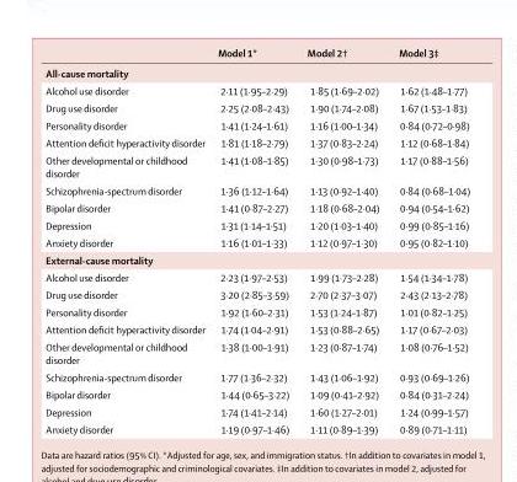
<table><thead><tr><td></td><td>Model 1*</td><td>Model 2†</td><td>Model 3‡</td></tr></thead><tbody><tr><td colspan="4">All-cause mortality</td></tr><tr><td>Alcohol use disorder</td><td>2·11 (1·95–2·29)</td><td>1·85 (1·69–2·02)</td><td>1·62 (1·48–1·77)</td></tr><tr><td>Drug use disorder</td><td>2·25 (2·08–2·43)</td><td>1·90 (1·74–2·08)</td><td>1·67 (1·53–1·83)</td></tr><tr><td>Personality disorder</td><td>1·41 (1·24–1·61)</td><td>1·16 (1·00–1·34)</td><td>0·84 (0·72–0·98)</td></tr><tr><td>Attention defi cit hyperactivity disorder</td><td>1·81 (1·18–2·79)</td><td>1·37 (0·83–2·24)</td><td>1·12 (0·68–1·84)</td></tr><tr><td>Other developmental or childhood disorder</td><td>1·41 (1·08–1·85)</td><td>1·30 (0·98–1·73)</td><td>1·17 (0·88–1·56)</td></tr><tr><td>Schizophrenia-spectrum disorder</td><td>1·36 (1·12–1·64)</td><td>1·13 (0·92–1·40)</td><td>0·84 (0·68–1·04)</td></tr><tr><td>Bipolar disorder</td><td>1·41 (0·87–2·27)</td><td>1·18 (0·68–2·04)</td><td>0·94 (0·54–1·62)</td></tr><tr><td>Depression</td><td>1·31 (1·14–1·51)</td><td>1·20 (1·03–1·40)</td><td>0·99 (0·85–1·16)</td></tr><tr><td>Anxiety disorder</td><td>1·16 (1·01–1·33)</td><td>1·12 (0·97–1·30)</td><td>0·95 (0·82–1·10)</td></tr><tr><td colspan="4">External-cause mortality</td></tr><tr><td>Alcohol use disorder</td><td>2·23 (1·97–2·53)</td><td>1·99 (1·73–2·28)</td><td>1·54 (1·34–1·78)</td></tr><tr><td>Drug use disorder</td><td>3·20 (2·85–3·59)</td><td>2·70 (2·37–3·07)</td><td>2·43 (2·13–2·78)</td></tr><tr><td>Personality disorder</td><td>1·92 (1·60–2·31)</td><td>1·53 (1·24–1·87)</td><td>1·01 (0·82–1·25)</td></tr><tr><td>Attention defi cit hyperactivity disorder</td><td>1·74 (1·04–2·91)</td><td>1·53 (0·88–2·65)</td><td>1·17 (0·67–2·03)</td></tr><tr><td>Other developmental or childhood disorder</td><td>1·38 (1·00–1·91)</td><td>1·23 (0·87–1·74)</td><td>1·08 (0·76–1·52)</td></tr><tr><td>Schizophrenia-spectrum disorder</td><td>1·77 (1·36–2·32)</td><td>1·43 (1·06–1·92)</td><td>0·93 (0·69–1·26)</td></tr><tr><td>Bipolar disorder</td><td>1·44 (0·65–3·22)</td><td>1·09 (0·41–2·92)</td><td>0·84 (0·31–2·24)</td></tr><tr><td>Depression</td><td>1·74 (1·41–2·14)</td><td>1·60 (1·27–2·01)</td><td>1·24 (0·99–1·57)</td></tr><tr><td>Anxiety disorder</td><td>1·19 (0·97–1·46)</td><td>1·11 (0·89–1·39)</td><td>0·89 (0·71–1·11)</td></tr></tbody></table>